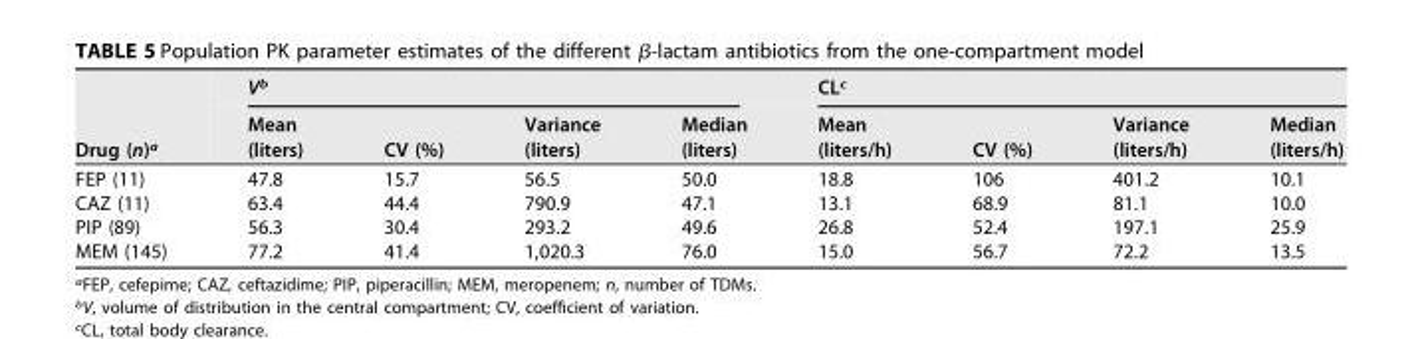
<table><thead><tr><td rowspan="2">Drug (n)<sup>a</sup></td><td colspan="4">V<sup>b</sup></td><td colspan="4">CL<sup>c</sup></td></tr><tr><td>Mean (liters)</td><td>CV (%)</td><td>Variance (liters)</td><td>Median (liters)</td><td>Mean (liters/h)</td><td>CV (%)</td><td>Variance (liters/h)</td><td>Median (liters/h)</td></tr></thead><tbody><tr><td>FEP (11)</td><td>47.8</td><td>15.7</td><td>56.5</td><td>50.0</td><td>18.8</td><td>106</td><td>401.2</td><td>10.1</td></tr><tr><td>CAZ (11)</td><td>63.4</td><td>44.4</td><td>790.9</td><td>47.1</td><td>13.1</td><td>68.9</td><td>81.1</td><td>10.0</td></tr><tr><td>PIP (89)</td><td>56.3</td><td>30.4</td><td>293.2</td><td>49.6</td><td>26.8</td><td>52.4</td><td>197.1</td><td>25.9</td></tr><tr><td>MEM (145)</td><td>77.2</td><td>41.4</td><td>1,020.3</td><td>76.0</td><td>15.0</td><td>56.7</td><td>72.2</td><td>13.5</td></tr></tbody></table>